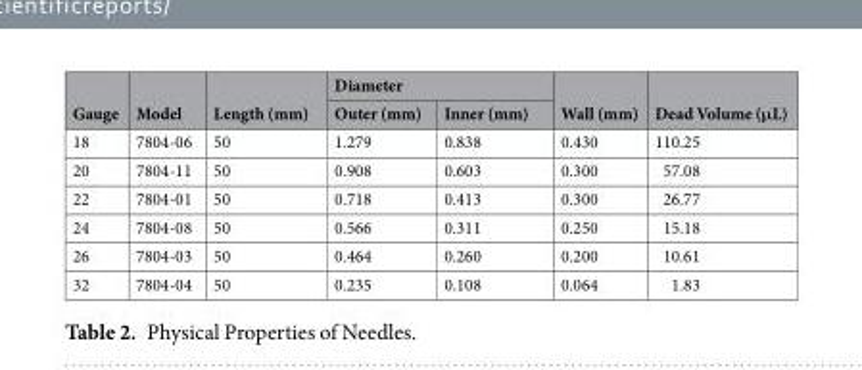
<table><thead><tr><td rowspan="2">Gauge</td><td rowspan="2">Model</td><td rowspan="2">Length (mm)</td><td colspan="2">Diameter</td><td rowspan="2">Wall (mm)</td><td rowspan="2">Dead Volume (μL)</td></tr><tr><td>Outer (mm)</td><td>Inner (mm)</td></tr></thead><tbody><tr><td>18</td><td>7804-06</td><td>50</td><td>1.279</td><td>0.838</td><td>0.430</td><td>110.25</td></tr><tr><td>20</td><td>7804-11</td><td>50</td><td>0.908</td><td>0.603</td><td>0.300</td><td>57.08</td></tr><tr><td>22</td><td>7804-01</td><td>50</td><td>0.718</td><td>0.413</td><td>0.300</td><td>26.77</td></tr><tr><td>24</td><td>7804-08</td><td>50</td><td>0.566</td><td>0.311</td><td>0.250</td><td>15.18</td></tr><tr><td>26</td><td>7804-03</td><td>50</td><td>0.464</td><td>0.260</td><td>0.200</td><td>10.61</td></tr><tr><td>32</td><td>7804-04</td><td>50</td><td>0.235</td><td>0.108</td><td>0.064</td><td>1.83</td></tr></tbody></table>